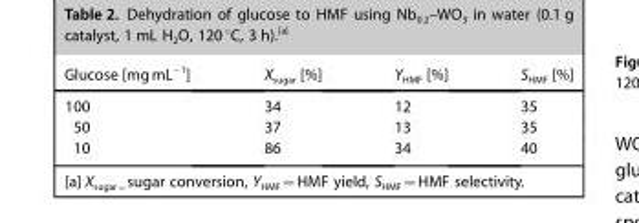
<table><thead><tr><td>Glucose [mgmL<sup>−1</sup>]</td><td>X<sub>sugar</sub> [%]</td><td>Y<sub>HMF</sub> [%]</td><td>S<sub>HMF</sub> [%]</td></tr></thead><tbody><tr><td>100</td><td>34</td><td>12</td><td>35</td></tr><tr><td>50</td><td>37</td><td>13</td><td>35</td></tr><tr><td>10</td><td>86</td><td>34</td><td>40</td></tr></tbody></table>